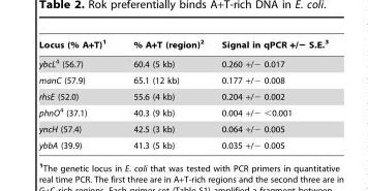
<table><thead><tr><td>Locus (% A+T)<sup>1</sup></td><td>% A+T (region)<sup>2</sup></td><td>Signal in qPCR +/− S.E.<sup>3</sup></td></tr></thead><tbody><tr><td>ybcL4 (56.7)</td><td>60.4 (5 kb)</td><td>0.260 +/− 0.017</td></tr><tr><td>manC (57.9)</td><td>65.1 (12 kb)</td><td>0.177 +/− 0.008</td></tr><tr><td>rhsE (52.0)</td><td>55.6 (4 kb)</td><td>0.204 +/− 0.002</td></tr><tr><td>phnO4 (37.1)</td><td>40.3 (9 kb)</td><td>0.004 +/− &lt;0.001</td></tr><tr><td>yncH (57.4)</td><td>42.5 (3 kb)</td><td>0.064 +/− 0.005</td></tr><tr><td>ybbA (39.9)</td><td>41.3 (5 kb)</td><td>0.035 +/− 0.005</td></tr></tbody></table>